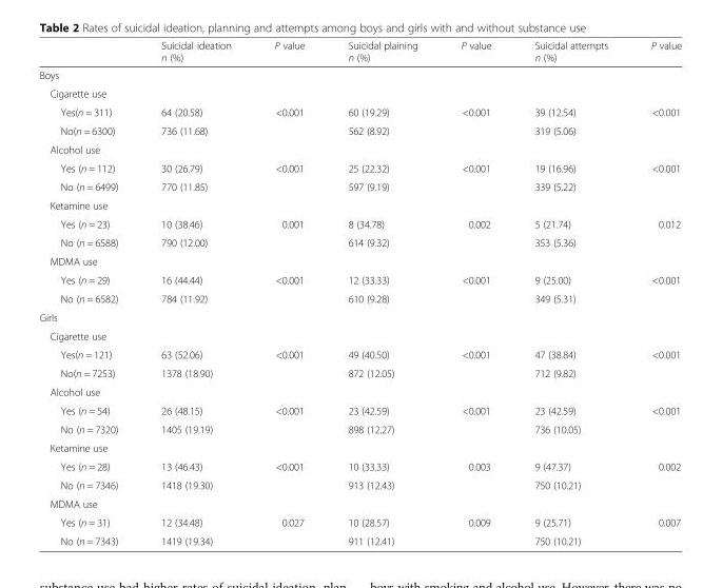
<table><thead><tr><td></td><td>Suicidal ideation n (%)</td><td>P value</td><td>Suicidal plaining n (%)</td><td>P value</td><td>Suicidal attempts n (%)</td><td>P value</td></tr></thead><tbody><tr><td colspan="7">Boys</td></tr><tr><td colspan="7">Cigarette use</td></tr><tr><td>Yes(n = 311)</td><td>64 (20.58)</td><td>&lt;0.001</td><td>60 (19.29)</td><td>&lt;0.001</td><td>39 (12.54)</td><td>&lt;0.001</td></tr><tr><td>No(n = 6300)</td><td>736 (11.68)</td><td></td><td>562 (8.92)</td><td></td><td>319 (5.06)</td><td></td></tr><tr><td colspan="7">Alcohol use</td></tr><tr><td>Yes (n = 112)</td><td>30 (26.79)</td><td>&lt;0.001</td><td>25 (22.32)</td><td>&lt;0.001</td><td>19 (16.96)</td><td>&lt;0.001</td></tr><tr><td>No (n = 6499)</td><td>770 (11.85)</td><td></td><td>597 (9.19)</td><td></td><td>339 (5.22)</td><td></td></tr><tr><td colspan="7">Ketamine use</td></tr><tr><td>Yes (n = 23)</td><td>10 (38.46)</td><td>0.001</td><td>8 (34.78)</td><td>0.002</td><td>5 (21.74)</td><td>0.012</td></tr><tr><td>No (n = 6588)</td><td>790 (12.00)</td><td></td><td>614 (9.32)</td><td></td><td>353 (5.36)</td><td></td></tr><tr><td colspan="7">MDMA use</td></tr><tr><td>Yes (n = 29)</td><td>16 (44.44)</td><td>&lt;0.001</td><td>12 (33.33)</td><td>&lt;0.001</td><td>9 (25.00)</td><td>&lt;0.001</td></tr><tr><td>No (n = 6582)</td><td>784 (11.92)</td><td></td><td>610 (9.28)</td><td></td><td>349 (5.31)</td><td></td></tr><tr><td colspan="7">Girls</td></tr><tr><td colspan="7">Cigarette use</td></tr><tr><td>Yes(n = 121)</td><td>63 (52.06)</td><td>&lt;0.001</td><td>49 (40.50)</td><td>&lt;0.001</td><td>47 (38.84)</td><td>&lt;0.001</td></tr><tr><td>No(n = 7253)</td><td>1378 (18.90)</td><td></td><td>872 (12.05)</td><td></td><td>712 (9.82)</td><td></td></tr><tr><td colspan="7">Alcohol use</td></tr><tr><td>Yes (n = 54)</td><td>26 (48.15)</td><td>&lt;0.001</td><td>23 (42.59)</td><td>&lt;0.001</td><td>23 (42.59)</td><td>&lt;0.001</td></tr><tr><td>No (n = 7320)</td><td>1405 (19.19)</td><td></td><td>898 (12.27)</td><td></td><td>736 (10.05)</td><td></td></tr><tr><td colspan="7">Ketamine use</td></tr><tr><td>Yes (n = 28)</td><td>13 (46.43)</td><td>&lt;0.001</td><td>10 (33.33)</td><td>0.003</td><td>9 (47.37)</td><td>0.002</td></tr><tr><td>No (n = 7346)</td><td>1418 (19.30)</td><td></td><td>913 (12.43)</td><td></td><td>750 (10.21)</td><td></td></tr><tr><td colspan="7">MDMA use</td></tr><tr><td>Yes (n = 31)</td><td>12 (34.48)</td><td>0.027</td><td>10 (28.57)</td><td>0.009</td><td>9 (25.71)</td><td>0.007</td></tr><tr><td>No (n = 7343)</td><td>1419 (19.34)</td><td></td><td>911 (12.41)</td><td></td><td>750 (10.21)</td><td></td></tr></tbody></table>